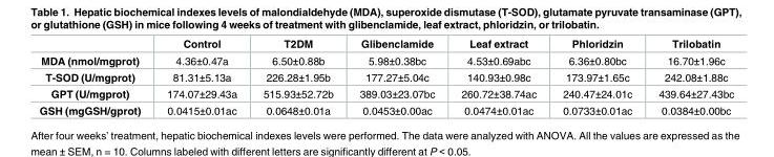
<table><thead><tr><td></td><td>Control</td><td>T2DM</td><td>Glibenclamide</td><td>Leaf extract</td><td>Phloridzin</td><td>Trilobatin</td></tr></thead><tbody><tr><td>MDA (nmol/mgprot)</td><td>4.36±0.47a</td><td>6.50±0.88b</td><td>5.98±0.38bc</td><td>4.53±0.69abc</td><td>6.36±0.80bc</td><td>16.70±1.96c</td></tr><tr><td>T-SOD (U/mgprot)</td><td>81.31±5.13a</td><td>226.28±1.95b</td><td>177.27±5.04c</td><td>140.93±0.98c</td><td>173.97±1.65c</td><td>242.08±1.88c</td></tr><tr><td>GPT (U/mgprot)</td><td>174.07±29.43a</td><td>515.93±52.72b</td><td>389.03±23.07bc</td><td>260.72±38.74ac</td><td>240.47±24.01c</td><td>439.64±27.43bc</td></tr><tr><td>GSH (mgGSH/gprot)</td><td>0.0415±0.01ac</td><td>0.0648±0.01a</td><td>0.0453±0.00ac</td><td>0.0474±0.01ac</td><td>0.0733±0.01ac</td><td>0.0384±0.00bc</td></tr></tbody></table>